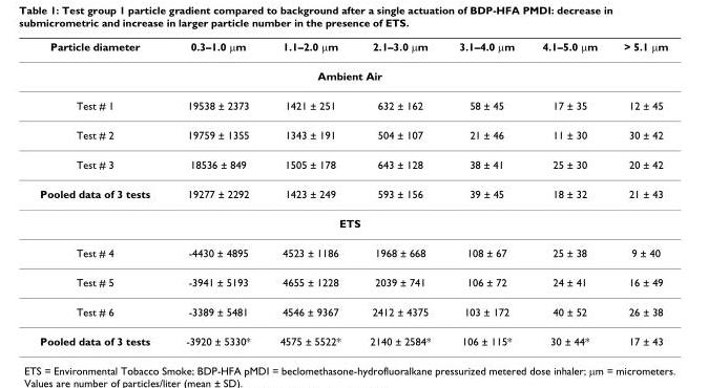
<table><thead><tr><td>Particle diameter</td><td>0.3–1.0 μm</td><td>1.1–2.0 μm</td><td>2.1–3.0 μm</td><td>3.1–4.0 μm</td><td>4.1–5.0 μm</td><td>&gt; 5.1 μm</td></tr></thead><tbody><tr><td colspan="7">Ambient Air</td></tr><tr><td>Test # 1</td><td>19538 ± 2373</td><td>1421 ± 251</td><td>632 ± 162</td><td>58 ± 45</td><td>17 ± 35</td><td>12 ± 45</td></tr><tr><td>Test # 2</td><td>19759 ± 1355</td><td>1343 ± 191</td><td>504 ± 107</td><td>21 ± 46</td><td>11 ± 30</td><td>30 ± 42</td></tr><tr><td>Test # 3</td><td>18536 ± 849</td><td>1505 ± 178</td><td>643 ± 128</td><td>38 ± 41</td><td>25 ± 30</td><td>20 ± 42</td></tr><tr><td>Pooled data of 3 tests</td><td>19277 ± 2292</td><td>1423 ± 249</td><td>593 ± 156</td><td>39 ± 45</td><td>18 ± 32</td><td>21 ± 43</td></tr><tr><td colspan="7">ETS</td></tr><tr><td>Test # 4</td><td>-4430 ± 4895</td><td>4523 ± 1186</td><td>1968 ± 668</td><td>108 ± 67</td><td>25 ± 38</td><td>9 ± 40</td></tr><tr><td>Test # 5</td><td>-3941 ± 5193</td><td>4655 ± 1228</td><td>2039 ± 741</td><td>106 ± 72</td><td>24 ± 41</td><td>16 ± 49</td></tr><tr><td>Test # 6</td><td>-3389 ± 5481</td><td>4546 ± 9367</td><td>2412 ± 4375</td><td>103 ± 172</td><td>40 ± 52</td><td>26 ± 38</td></tr><tr><td>Pooled data of 3 tests</td><td>-3920 ± 5330*</td><td>4575 ± 5522*</td><td>2140 ± 2584*</td><td>106 ± 115*</td><td>30 ± 44*</td><td>17 ± 43</td></tr></tbody></table>